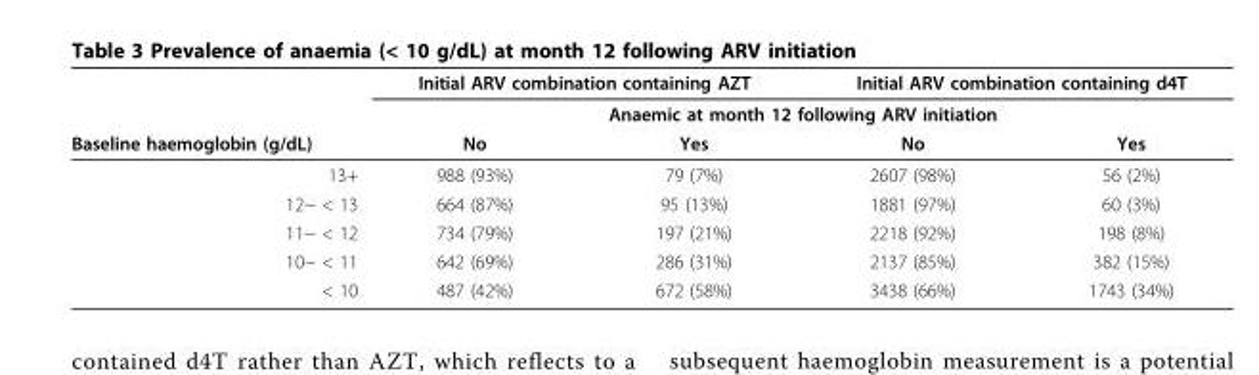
<table><thead><tr><td rowspan="3">Baseline haemoglobin (g/dL)</td><td colspan="2">Initial ARV combination containing AZT</td><td colspan="2">Initial ARV combination containing d4T</td></tr><tr><td colspan="4">Anaemic at month 12 following ARV initiation</td></tr><tr><td>No</td><td>Yes</td><td>No</td><td>Yes</td></tr></thead><tbody><tr><td>13+</td><td>988 (93%)</td><td>79 (7%)</td><td>2607 (98%)</td><td>56 (2%)</td></tr><tr><td>12~ &lt; 13</td><td>664 (87%)</td><td>95 (13%)</td><td>1881 (97%)</td><td>60 (3%)</td></tr><tr><td>11~ &lt; 12</td><td>734 (79%)</td><td>197 (21%)</td><td>2218 (92%)</td><td>198 (8%)</td></tr><tr><td>10~ &lt; 11</td><td>642 (69%)</td><td>286 (31%)</td><td>2137 (85%)</td><td>382 (15%)</td></tr><tr><td>&lt; 10</td><td>487 (42%)</td><td>672 (58%)</td><td>3438 (66%)</td><td>1743 (34%)</td></tr></tbody></table>